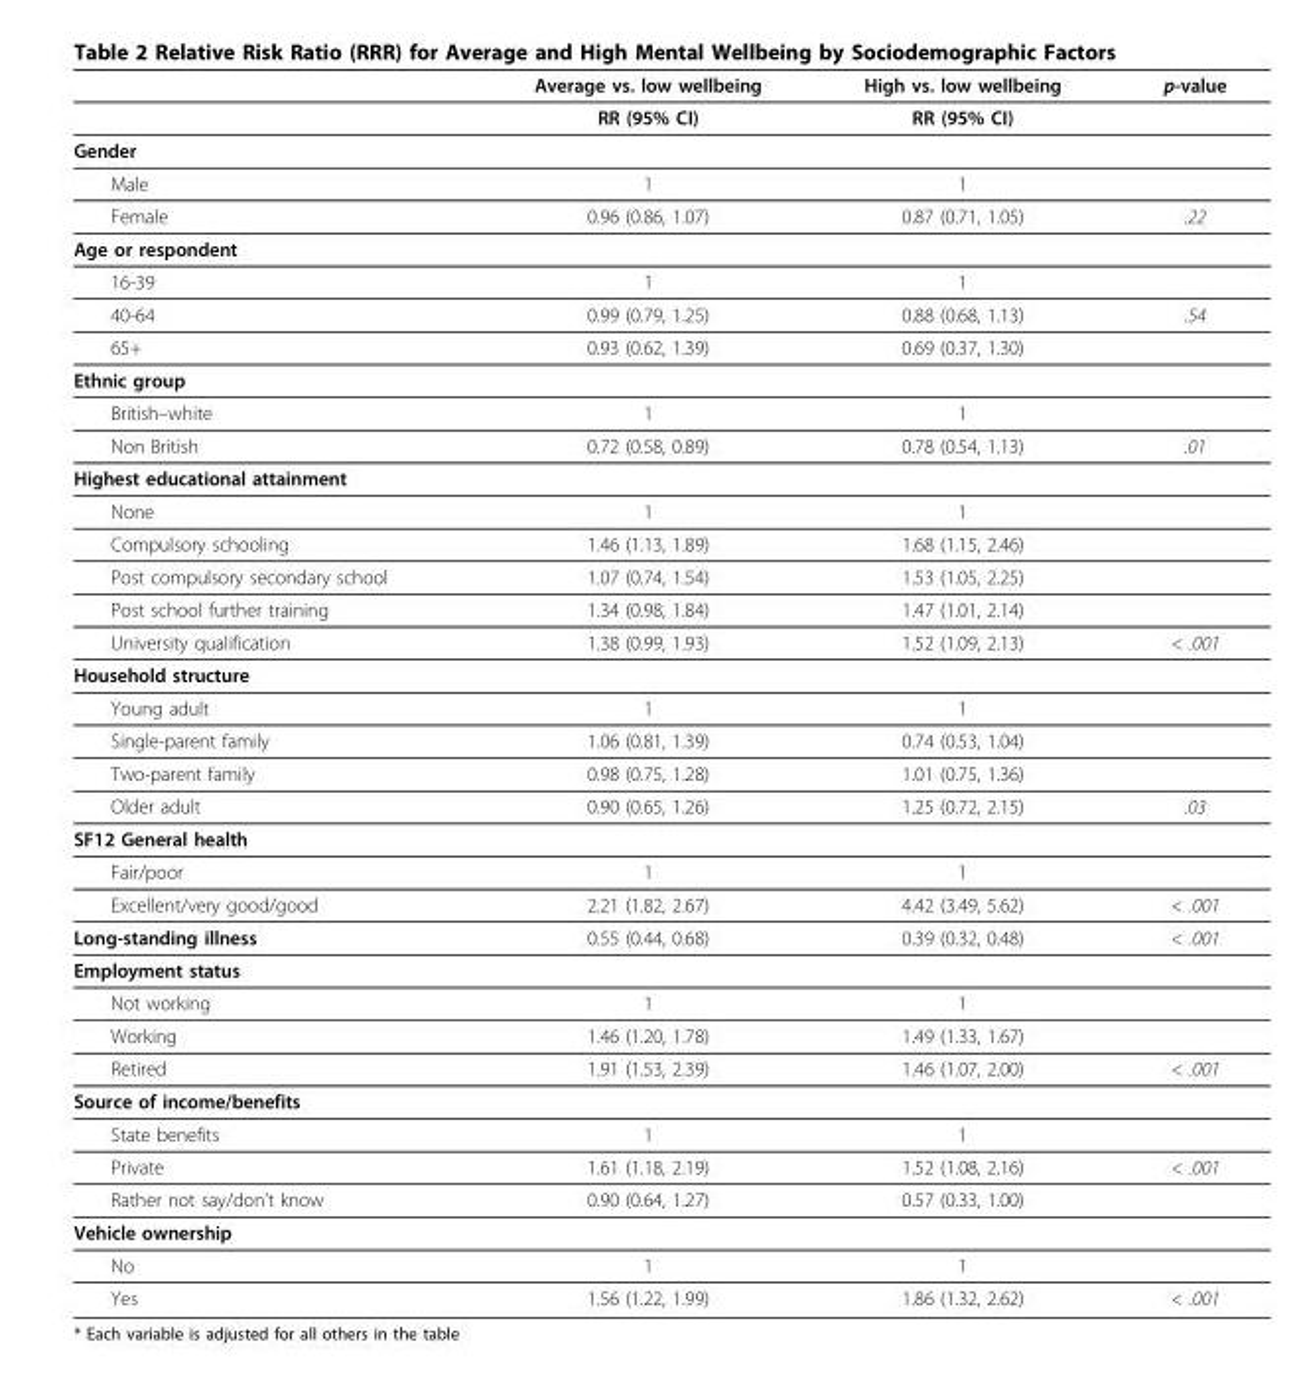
<table><thead><tr><td></td><td>Average vs. low wellbeing</td><td>High vs. low wellbeing</td><td>p-value</td></tr></thead><tbody><tr><td></td><td>RR (95% CI)</td><td>RR (95% CI)</td><td></td></tr><tr><td colspan="4">Gender</td></tr><tr><td>Male</td><td>1</td><td>1</td><td></td></tr><tr><td>Female</td><td>0.96 (0.86, 1.07)</td><td>0.87 (0.71, 1.05)</td><td>.22</td></tr><tr><td colspan="4">Age or respondent</td></tr><tr><td>16-39</td><td>1</td><td>1</td><td></td></tr><tr><td>40-64</td><td>0.99 (0.79, 1.25)</td><td>0.88 (0.68, 1.13)</td><td>.54</td></tr><tr><td>65+</td><td>0.93 (0.62, 1.39)</td><td>0.69 (0.37, 1.30)</td><td></td></tr><tr><td colspan="4">Ethnic group</td></tr><tr><td>British–white</td><td>1</td><td>1</td><td></td></tr><tr><td>Non British</td><td>0.72 (0.58, 0.89)</td><td>0.78 (0.54, 1.13)</td><td>.01</td></tr><tr><td colspan="4">Highest educational attainment</td></tr><tr><td>None</td><td>1</td><td>1</td><td></td></tr><tr><td>Compulsory schooling</td><td>1.46 (1.13, 1.89)</td><td>1.68 (1.15, 2.46)</td><td></td></tr><tr><td>Post compulsory secondary school</td><td>1.07 (0.74, 1.54)</td><td>1.53 (1.05, 2.25)</td><td></td></tr><tr><td>Post school further training</td><td>1.34 (0.98, 1.84)</td><td>1.47 (1.01, 2.14)</td><td></td></tr><tr><td>University qualification</td><td>1.38 (0.99, 1.93)</td><td>1.52 (1.09, 2.13)</td><td>&lt; .001</td></tr><tr><td colspan="4">Household structure</td></tr><tr><td>Young adult</td><td>1</td><td>1</td><td></td></tr><tr><td>Single-parent family</td><td>1.06 (0.81, 1.39)</td><td>0.74 (0.53, 1.04)</td><td></td></tr><tr><td>Two-parent family</td><td>0.98 (0.75, 1.28)</td><td>1.01 (0.75, 1.36)</td><td></td></tr><tr><td>Older adult</td><td>0.90 (0.65, 1.26)</td><td>1.25 (0.72, 2.15)</td><td>.03</td></tr><tr><td colspan="4">SF12 General health</td></tr><tr><td>Fair/poor</td><td>1</td><td>1</td><td></td></tr><tr><td>Excellent/very good/good</td><td>2.21 (1.82, 2.67)</td><td>4.42 (3.49, 5.62)</td><td>&lt; .001</td></tr><tr><td>Long-standing illness</td><td>0.55 (0.44, 0.68)</td><td>0.39 (0.32, 0.48)</td><td>&lt; .001</td></tr><tr><td colspan="4">Employment status</td></tr><tr><td>Not working</td><td>1</td><td>1</td><td></td></tr><tr><td>Working</td><td>1.46 (1.20, 1.78)</td><td>1.49 (1.33, 1.67)</td><td></td></tr><tr><td>Retired</td><td>1.91 (1.53, 2.39)</td><td>1.46 (1.07, 2.00)</td><td>&lt; .001</td></tr><tr><td colspan="4">Source of income/benefits</td></tr><tr><td>State benefits</td><td>1</td><td>1</td><td></td></tr><tr><td>Private</td><td>1.61 (1.18, 2.19)</td><td>1.52 (1.08, 2.16)</td><td>&lt; .001</td></tr><tr><td>Rather not say/don’t know</td><td>0.90 (0.64, 1.27)</td><td>0.57 (0.33, 1.00)</td><td></td></tr><tr><td colspan="4">Vehicle ownership</td></tr><tr><td>No</td><td>1</td><td>1</td><td></td></tr><tr><td>Yes</td><td>1.56 (1.22, 1.99)</td><td>1.86 (1.32, 2.62)</td><td>&lt; .001</td></tr></tbody></table>